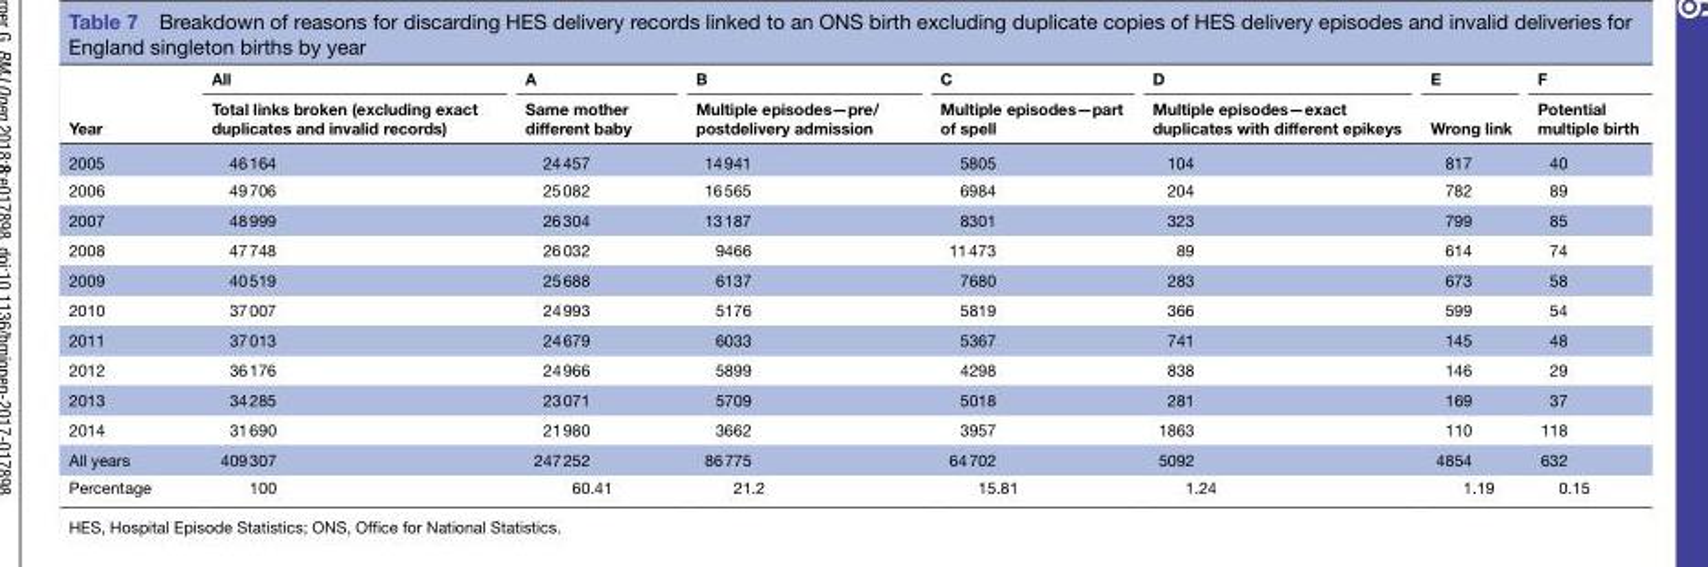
<table><thead><tr><td rowspan="2">Year</td><td rowspan="2">All Total links broken (excluding exact duplicates and invalid records)</td><td rowspan="2">A Same mother different baby</td><td rowspan="2">B Multiple episodes—pre/ postdelivery admission</td><td rowspan="2">C Multiple episodes—part of spell</td><td rowspan="2">D Multiple episodes—exact duplicates with different epikeys</td><td rowspan="2">E Wrong link</td><td rowspan="2">F Potential multiple birth</td></tr><tr></tr></thead><tbody><tr><td>2005</td><td>46 164</td><td>24 457</td><td>14 941</td><td>5805</td><td>104</td><td>817</td><td>40</td></tr><tr><td>2006</td><td>49 706</td><td>25 082</td><td>16 565</td><td>6984</td><td>204</td><td>782</td><td>89</td></tr><tr><td>2007</td><td>48 999</td><td>26 304</td><td>13 187</td><td>8301</td><td>323</td><td>799</td><td>85</td></tr><tr><td>2008</td><td>47 748</td><td>26 032</td><td>9466</td><td>11 473</td><td>89</td><td>614</td><td>74</td></tr><tr><td>2009</td><td>40 519</td><td>25 688</td><td>6137</td><td>7680</td><td>283</td><td>673</td><td>58</td></tr><tr><td>2010</td><td>37 007</td><td>24 993</td><td>5176</td><td>5819</td><td>366</td><td>599</td><td>54</td></tr><tr><td>2011</td><td>37 013</td><td>24 679</td><td>6033</td><td>5367</td><td>741</td><td>145</td><td>48</td></tr><tr><td>2012</td><td>36 176</td><td>24 966</td><td>5899</td><td>4298</td><td>838</td><td>146</td><td>29</td></tr><tr><td>2013</td><td>34 285</td><td>23 071</td><td>5709</td><td>5018</td><td>281</td><td>169</td><td>37</td></tr><tr><td>2014</td><td>31 690</td><td>21 980</td><td>3662</td><td>3957</td><td>1863</td><td>110</td><td>118</td></tr><tr><td>All years</td><td>409 307</td><td>247 252</td><td>86 775</td><td>64 702</td><td>5092</td><td>4854</td><td>632</td></tr><tr><td>Percentage</td><td>100</td><td>60.41</td><td>21.2</td><td>15.81</td><td>1.24</td><td>1.19</td><td>0.15</td></tr></tbody></table>